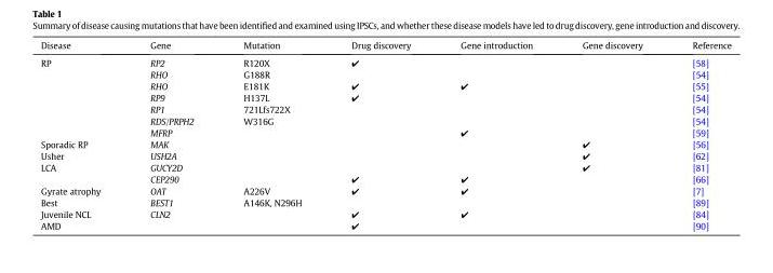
<table><thead><tr><td>Disease</td><td>Gene</td><td>Mutation</td><td>Drug discovery</td><td>Gene introduction</td><td>Gene discovery</td><td>Reference</td></tr></thead><tbody><tr><td rowspan="7">RP</td><td>RP2</td><td>R120X</td><td>✔</td><td></td><td></td><td>[58]</td></tr><tr><td>RHO</td><td>G188R</td><td></td><td></td><td></td><td>[54]</td></tr><tr><td>RHO</td><td>E181K</td><td>✔</td><td>✔</td><td></td><td>[55]</td></tr><tr><td>RP9</td><td>H137L</td><td>✔</td><td></td><td></td><td>[54]</td></tr><tr><td>RP1</td><td>721Lfs722X</td><td></td><td></td><td></td><td>[54]</td></tr><tr><td>RDS/PRPH2</td><td>W316G</td><td></td><td></td><td></td><td>[54]</td></tr><tr><td>MFRP</td><td></td><td></td><td>✔</td><td></td><td>[59]</td></tr><tr><td>Sporadic RP</td><td>MAK</td><td></td><td></td><td></td><td>✔</td><td>[56]</td></tr><tr><td>Usher</td><td>USH2A</td><td></td><td></td><td></td><td>✔</td><td>[62]</td></tr><tr><td rowspan="2">LCA</td><td>GUCY2D</td><td></td><td></td><td></td><td>✔</td><td>[81]</td></tr><tr><td>CEP290</td><td></td><td>✔</td><td>✔</td><td></td><td>[66]</td></tr><tr><td>Gyrate atrophy</td><td>OAT</td><td>A226V</td><td>✔</td><td>✔</td><td></td><td>[7]</td></tr><tr><td>Best</td><td>BEST1</td><td>A146K, N296H</td><td></td><td></td><td></td><td>[89]</td></tr><tr><td>Juvenile NCL</td><td>CLN2</td><td></td><td>✔</td><td>✔</td><td></td><td>[84]</td></tr><tr><td>AMD</td><td></td><td></td><td>✔</td><td></td><td></td><td>[90]</td></tr></tbody></table>